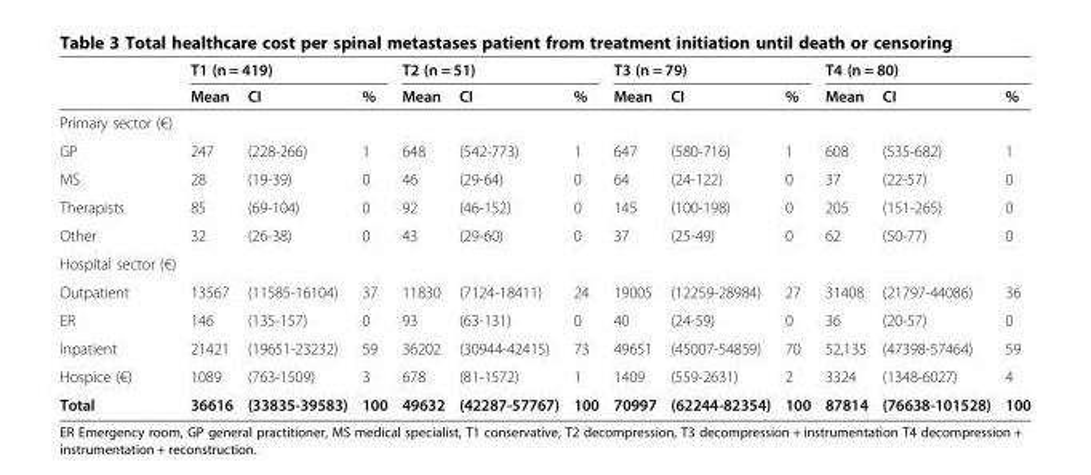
<table><thead><tr><td rowspan="2"></td><td colspan="3">T1 (n = 419)</td><td colspan="3">T2 (n = 51)</td><td colspan="3">T3 (n = 79)</td><td colspan="3">T4 (n = 80)</td></tr><tr><td>Mean</td><td>CI</td><td>%</td><td>Mean</td><td>CI</td><td>%</td><td>Mean</td><td>CI</td><td>%</td><td>Mean</td><td>CI</td><td>%</td></tr></thead><tbody><tr><td colspan="13">Primary sector (€)</td></tr><tr><td>GP</td><td>247</td><td>(228-266)</td><td>1</td><td>648</td><td>(542-773)</td><td>1</td><td>647</td><td>(580-716)</td><td>1</td><td>608</td><td>(535-682)</td><td>1</td></tr><tr><td>MS</td><td>28</td><td>(19-39)</td><td>0</td><td>46</td><td>(29-64)</td><td>0</td><td>64</td><td>(24-122)</td><td>0</td><td>37</td><td>(22-57)</td><td>0</td></tr><tr><td>Therapists</td><td>85</td><td>(69-104)</td><td>0</td><td>92</td><td>(46-152)</td><td>0</td><td>145</td><td>(100-198)</td><td>0</td><td>205</td><td>(151-265)</td><td>0</td></tr><tr><td>Other</td><td>32</td><td>(26-38)</td><td>0</td><td>43</td><td>(29-60)</td><td>0</td><td>37</td><td>(25-49)</td><td>0</td><td>62</td><td>(50-77)</td><td>0</td></tr><tr><td colspan="13">Hospital sector (€)</td></tr><tr><td>Outpatient</td><td>13567</td><td>(11585-16104)</td><td>37</td><td>11830</td><td>(7124-18411)</td><td>24</td><td>19005</td><td>(12259-28984)</td><td>27</td><td>31408</td><td>(21797-44086)</td><td>36</td></tr><tr><td>ER</td><td>146</td><td>(135-157)</td><td>0</td><td>93</td><td>(63-131)</td><td>0</td><td>40</td><td>(24-59)</td><td>0</td><td>36</td><td>(20-57)</td><td>0</td></tr><tr><td>Inpatient</td><td>21421</td><td>(19651-23232)</td><td>59</td><td>36202</td><td>(30944-42415)</td><td>73</td><td>49651</td><td>(45007-54859)</td><td>70</td><td>52,135</td><td>(47398-57464)</td><td>59</td></tr><tr><td>Hospice (€)</td><td>1089</td><td>(763-1509)</td><td>3</td><td>678</td><td>(81-1572)</td><td>1</td><td>1409</td><td>(559-2631)</td><td>2</td><td>3324</td><td>(1348-6027)</td><td>4</td></tr><tr><td>Total</td><td>36616</td><td>(33835-39583)</td><td>100</td><td>49632</td><td>(42287-57767)</td><td>100</td><td>70997</td><td>(62244-82354)</td><td>100</td><td>87814</td><td>(76638-101528)</td><td>100</td></tr></tbody></table>